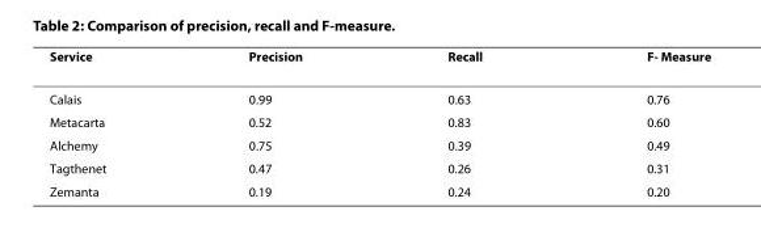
<table><thead><tr><td>Service</td><td>Precision</td><td>Recall</td><td>F- Measure</td></tr></thead><tbody><tr><td>Calais</td><td>0.99</td><td>0.63</td><td>0.76</td></tr><tr><td>Metacarta</td><td>0.52</td><td>0.83</td><td>0.60</td></tr><tr><td>Alchemy</td><td>0.75</td><td>0.39</td><td>0.49</td></tr><tr><td>Tagthenet</td><td>0.47</td><td>0.26</td><td>0.31</td></tr><tr><td>Zemanta</td><td>0.19</td><td>0.24</td><td>0.20</td></tr></tbody></table>